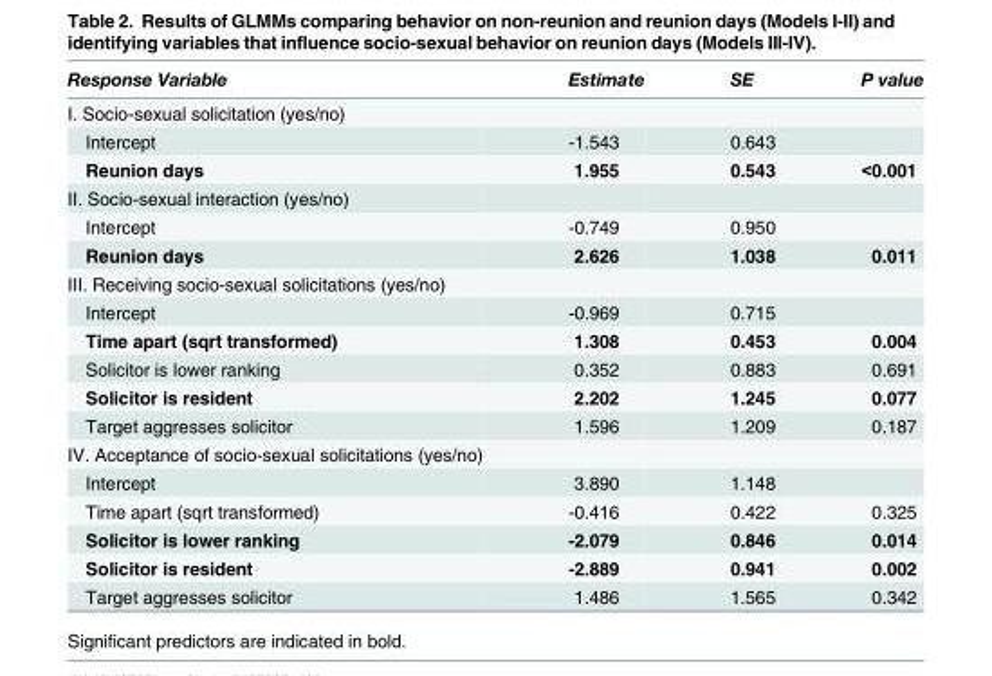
<table><thead><tr><td>Response Variable</td><td>Estimate</td><td>SE</td><td>P value</td></tr></thead><tbody><tr><td colspan="4">I. Socio-sexual solicitation (yes/no)</td></tr><tr><td>Intercept</td><td>-1.543</td><td>0.643</td><td></td></tr><tr><td>Reunion days</td><td>1.955</td><td>0.543</td><td>&lt;0.001</td></tr><tr><td colspan="4">II. Socio-sexual interaction (yes/no)</td></tr><tr><td>Intercept</td><td>-0.749</td><td>0.950</td><td></td></tr><tr><td>Reunion days</td><td>2.626</td><td>1.038</td><td>0.011</td></tr><tr><td colspan="4">III. Receiving socio-sexual solicitations (yes/no)</td></tr><tr><td>Intercept</td><td>-0.969</td><td>0.715</td><td></td></tr><tr><td>Time apart (sqrt transformed)</td><td>1.308</td><td>0.453</td><td>0.004</td></tr><tr><td>Solicitor is lower ranking</td><td>0.352</td><td>0.883</td><td>0.691</td></tr><tr><td>Solicitor is resident</td><td>2.202</td><td>1.245</td><td>0.077</td></tr><tr><td>Target aggresses solicitor</td><td>1.596</td><td>1.209</td><td>0.187</td></tr><tr><td colspan="4">IV. Acceptance of socio-sexual solicitations (yes/no)</td></tr><tr><td>Intercept</td><td>3.890</td><td>1.148</td><td></td></tr><tr><td>Time apart (sqrt transformed)</td><td>-0.416</td><td>0.422</td><td>0.325</td></tr><tr><td>Solicitor is lower ranking</td><td>-2.079</td><td>0.846</td><td>0.014</td></tr><tr><td>Solicitor is resident</td><td>-2.889</td><td>0.941</td><td>0.002</td></tr><tr><td>Target aggresses solicitor</td><td>1.486</td><td>1.565</td><td>0.342</td></tr></tbody></table>